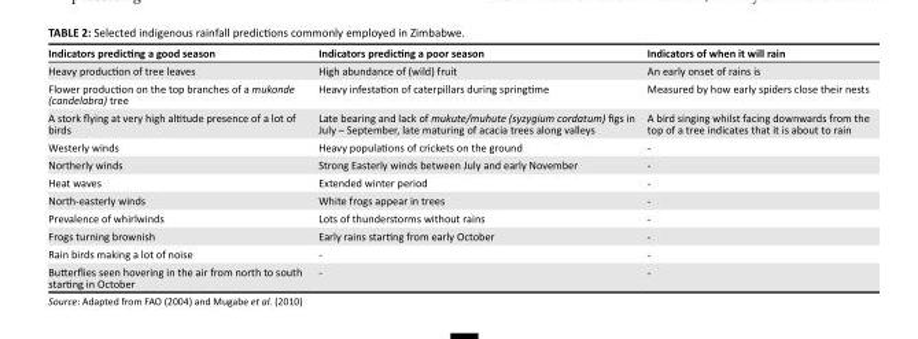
<table><thead><tr><td>Indicators predicting a good season</td><td>Indicators predicting a poor season</td><td>Indicators of when it will rain</td></tr></thead><tbody><tr><td>Heavy production of tree leaves</td><td>High abundance of (wild) fruit</td><td>An early onset of rains is</td></tr><tr><td>Flower production on the top branches of a mukonde (candelabra) tree</td><td>Heavy infestation of caterpillars during springtime</td><td>Measured by how early spiders close their nests</td></tr><tr><td>A stork flying at very high altitude presence of a lot of birds</td><td>Late bearing and lack of mukute/muhute (syzygium cordatum) figs in July – September, late maturing of acacia trees along valleys</td><td>A bird singing whilst facing downwards from the top of a tree indicates that it is about to rain</td></tr><tr><td>Westerly winds</td><td>Heavy populations of crickets on the ground</td><td>-</td></tr><tr><td>Northerly winds</td><td>Strong Easterly winds between July and early November</td><td>-</td></tr><tr><td>Heat waves</td><td>Extended winter period</td><td>-</td></tr><tr><td>North-easterly winds</td><td>White frogs appear in trees</td><td>-</td></tr><tr><td>Prevalence of whirlwinds</td><td>Lots of thunderstorms without rains</td><td>-</td></tr><tr><td>Frogs turning brownish</td><td>Early rains starting from early October</td><td>-</td></tr><tr><td>Rain birds making a lot of noise</td><td>-</td><td>-</td></tr><tr><td>Butterflies seen hovering in the air from north to south starting in October</td><td>-</td><td>-</td></tr></tbody></table>